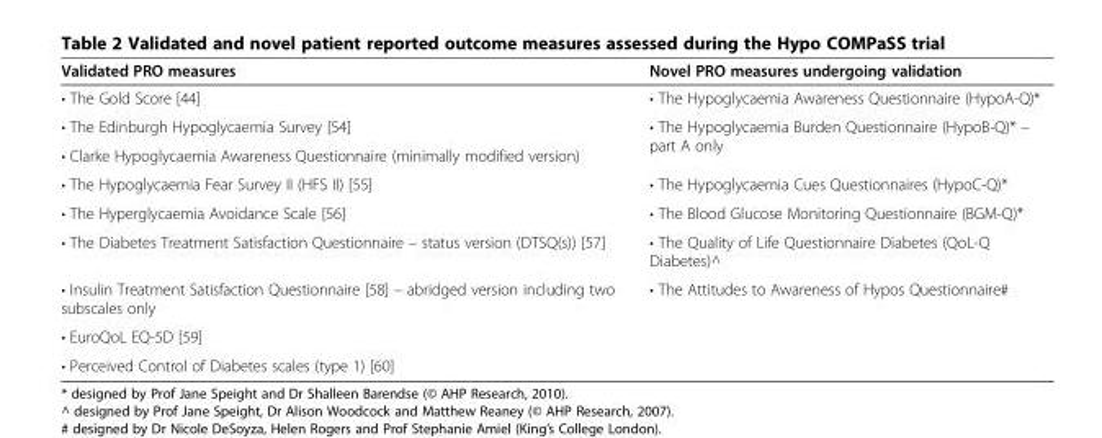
<table><thead><tr><td>Validated PRO measures</td><td>Novel PRO measures undergoing validation</td></tr></thead><tbody><tr><td>• The Gold Score [44]</td><td>• The Hypoglycaemia Awareness Questionnaire (HypoA-Q)*</td></tr><tr><td>• The Edinburgh Hypoglycaemia Survey [54]</td><td rowspan="2">• The Hypoglycaemia Burden Questionnaire (HypoB-Q)* – part A only</td></tr><tr><td>• Clarke Hypoglycaemia Awareness Questionnaire (minimally modified version)</td></tr><tr><td>• The Hypoglycaemia Fear Survey II (HFS II) [55]</td><td>• The Hypoglycaemia Cues Questionnaires (HypoC-Q)*</td></tr><tr><td>• The Hyperglycaemia Avoidance Scale [56]</td><td>• The Blood Glucose Monitoring Questionnaire (BGM-Q)*</td></tr><tr><td>• The Diabetes Treatment Satisfaction Questionnaire – status version (DTSQ(s)) [57]</td><td>• The Quality of Life Questionnaire Diabetes (QoL-Q Diabetes)^</td></tr><tr><td>• Insulin Treatment Satisfaction Questionnaire [58] – abridged version including two subscales only</td><td>• The Attitudes to Awareness of Hypos Questionnaire#</td></tr><tr><td colspan="2">• EuroQoL EQ-5D [59]</td></tr><tr><td>• Perceived Control of Diabetes scales (type 1) [60]</td><td></td></tr></tbody></table>